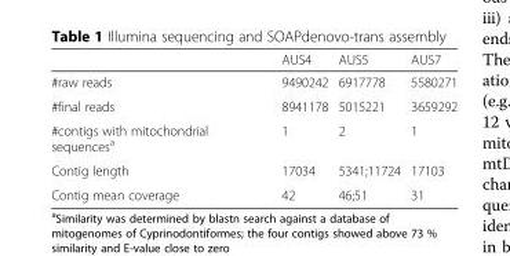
<table><thead><tr><td></td><td>AUS4</td><td>AUS5</td><td>AUS7</td></tr></thead><tbody><tr><td>#raw reads</td><td>9490242</td><td>6917778</td><td>5580271</td></tr><tr><td>#final reads</td><td>8941178</td><td>5015221</td><td>3659292</td></tr><tr><td>#contigs with mitochondrial sequences<sup>a</sup></td><td>1</td><td>2</td><td>1</td></tr><tr><td>Contig length</td><td>17034</td><td>5341;11724</td><td>17103</td></tr><tr><td>Contig mean coverage</td><td>42</td><td>46;51</td><td>31</td></tr></tbody></table>